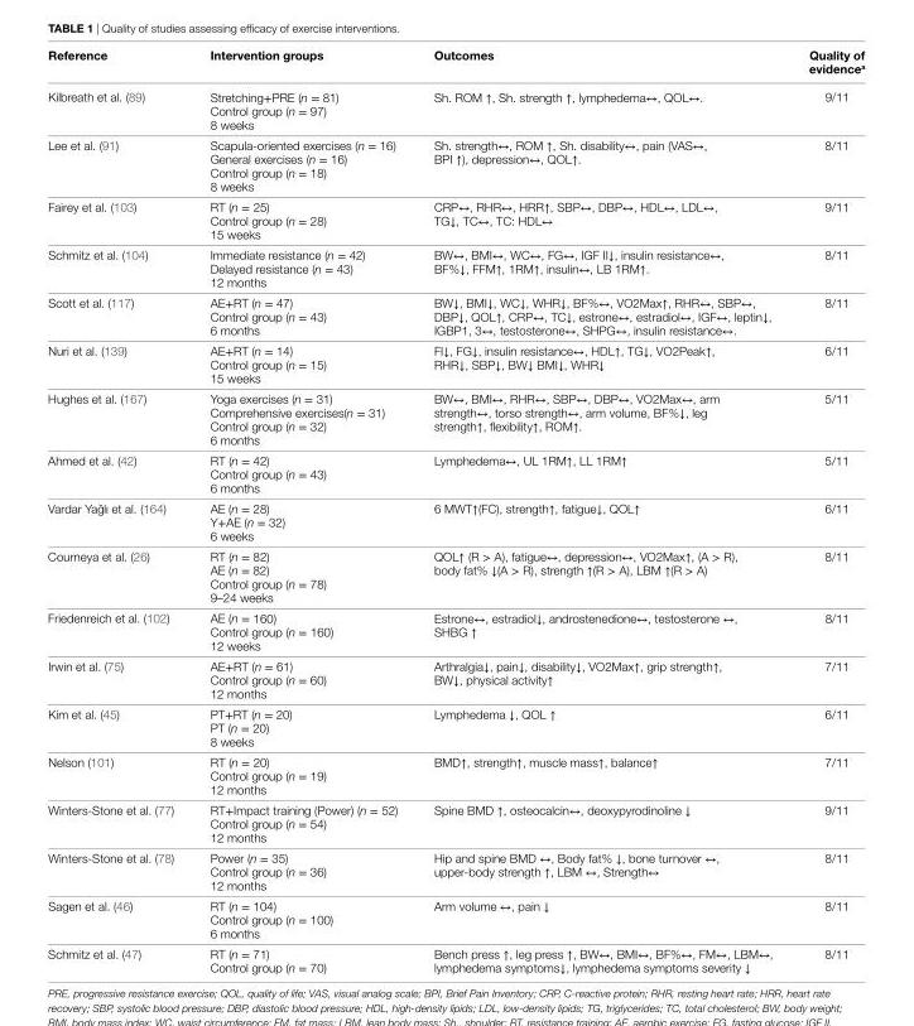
<table><thead><tr><td>Reference</td><td>intervention groups</td><td>Outcomes</td><td>Quality of evidence<sup>a</sup></td></tr></thead><tbody><tr><td>Kilbreath et al. (89)</td><td>Stretching+PRE (n = 81) Control group (n = 97) 8 weeks</td><td>Sh. ROM ↑, Sh. strength ↑, lymphedema↔, QOL↔.</td><td>9/11</td></tr><tr><td>Lee et al. (91)</td><td>Scapula-oriented exercises (n = 16) General exercises (n = 16) Control group (n = 18) 8 weeks</td><td>Sh. strength↔, ROM ↑, Sh. disability↔, pain (VAS↔, BPI ↑), depression↔, QOL↑.</td><td>8/11</td></tr><tr><td>Fairey et al. (103)</td><td>RT (n = 25) Control group (n = 28) 15 weeks</td><td>CRP↔, RHR↔, HRR↑, SBP↔, DBP↔, HDL↔, LDL↔, TG↓, TC↔, TC: HDL↔</td><td>9/11</td></tr><tr><td>Schmitz et al. (104)</td><td>Immediate resistance (n = 42) Delayed resistance (n = 43) 12 months</td><td>BW↔, BMI↔, WC↔, FG↔, IGF II↓, insulin resistance↔, BF%↓, FFM↑, 1RM↑, insulin↔, LB 1RM↑.</td><td>8/11</td></tr><tr><td>Scott et al. (117)</td><td>AE+RT (n = 47) Control group (n = 43) 6 months</td><td>BW↓, BMI↓, WC↓, WHR↓, BF%↔, VO2Max↑, RHR↔, SBP↔, DBP↓, QOL↑, CRP↔, TC↓, estrone↔, estradiol↔, IGF↔, leptin↓, IGBP1, 3↔, testosterone↔, SHPG↔, insulin resistance↔.</td><td>8/11</td></tr><tr><td>Nuri et al. (139)</td><td>AE+RT (n = 14) Control group (n = 15) 15 weeks</td><td>FI↓, FG↓, insulin resistance↔, HDL↑, TG↓, VO2Peak↑, RHR↓, SBP↓, BW↓ BMI↓, WHR↓</td><td>6/11</td></tr><tr><td>Hughes et al. (167)</td><td>Yoga exercises (n = 31) Comprehensive exercises(n = 31) Control group (n = 32) 6 months</td><td>BW↔, BMI↔, RHR↔, SBP↔, DBP↔, VO2Max↔, arm strength↔, torso strength↔, arm volume, BF%↓, leg strength↑, flexibility↑, ROM↑.</td><td>5/11</td></tr><tr><td>Ahmed et al. (42)</td><td>RT (n = 42) Control group (n = 43) 6 months</td><td>Lymphedema↔, UL 1RM↑, LL 1RM↑</td><td>5/11</td></tr><tr><td>Vardar Yag˘lı et al. (164)</td><td>AE (n = 28) Y+AE (n = 32) 6 weeks</td><td>6 MWT↑(FC), strength↑, fatigue↓, QOL↑</td><td>6/11</td></tr><tr><td>Courneya et al. (26)</td><td>RT (n = 82) AE (n = 82) Control group (n = 78) 9–24 weeks</td><td>QOL↑ (R &gt; A), fatigue↔, depression↔, VO2Max↑, (A &gt; R), body fat% ↓(A &gt; R), strength ↑(R &gt; A), LBM ↑(R &gt; A)</td><td>8/11</td></tr><tr><td>Friedenreich et al. (102)</td><td>AE (n = 160) Control group (n = 160) 12 weeks</td><td>Estrone↔, estradiol↓, androstenedione↔, testosterone ↔, SHBG ↑</td><td>8/11</td></tr><tr><td>Irwin et al. (75)</td><td>AE+RT (n = 61) Control group (n = 60) 12 months</td><td>Arthralgia↓, pain↓, disability↓, VO2Max↑, grip strength↑, BW↓, physical activity↑</td><td>7/11</td></tr><tr><td>Kim et al. (45)</td><td>PT+RT (n = 20) PT (n = 20) 8 weeks</td><td>Lymphedema ↓, QOL ↑</td><td>6/11</td></tr><tr><td>Nelson (101)</td><td>RT (n = 20) Control group (n = 19) 12 months</td><td>BMD↑, strength↑, muscle mass↑, balance↑</td><td>7/11</td></tr><tr><td>Winters-Stone et al. (77)</td><td>RT+Impact training (Power) (n = 52) Control group (n = 54) 12 months</td><td>Spine BMD ↑, osteocalcin↔, deoxypyrodinoline ↓</td><td>9/11</td></tr><tr><td>Winters-Stone et al. (78)</td><td>Power (n = 35) Control group (n = 36) 12 months</td><td>Hip and spine BMD ↔, Body fat% ↓, bone turnover ↔, upper-body strength ↑, LBM ↔, Strength↔</td><td>8/11</td></tr><tr><td>Sagen et al. (46)</td><td>RT (n = 104) Control group (n = 100) 6 months</td><td>Arm volume ↔, pain ↓</td><td>8/11</td></tr><tr><td>Schmitz et al. (47)</td><td>RT (n = 71) Control group (n = 70)</td><td>Bench press ↑, leg press ↑, BW↔, BMI↔, BF%↔, FM↔, LBM↔, lymphedema symptoms↓, lymphedema symptoms severity ↓</td><td>8/11</td></tr></tbody></table>